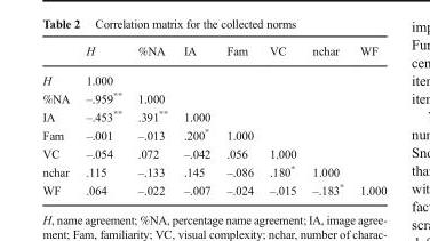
<table><thead><tr><td></td><td>H</td><td>%NA</td><td>IA</td><td>Fam</td><td>VC</td><td>nchar</td><td>WF</td></tr></thead><tbody><tr><td>H</td><td>1.000</td><td></td><td></td><td></td><td></td><td></td><td></td></tr><tr><td>%NA</td><td>–.959**</td><td>1.000</td><td></td><td></td><td></td><td></td><td></td></tr><tr><td>IA</td><td>–.453**</td><td>.391**</td><td>1.000</td><td></td><td></td><td></td><td></td></tr><tr><td>Fam</td><td>–.001</td><td>–.013</td><td>.200*</td><td>1.000</td><td></td><td></td><td></td></tr><tr><td>VC</td><td>–.054</td><td>.072</td><td>–.042</td><td>.056</td><td>1.000</td><td></td><td></td></tr><tr><td>nchar</td><td>.115</td><td>–.133</td><td>.145</td><td>–.086</td><td>.180*</td><td>1.000</td><td></td></tr><tr><td>WF</td><td>.064</td><td>–.022</td><td>–.007</td><td>–.024</td><td>–.015</td><td>–.183*</td><td>1.000</td></tr></tbody></table>